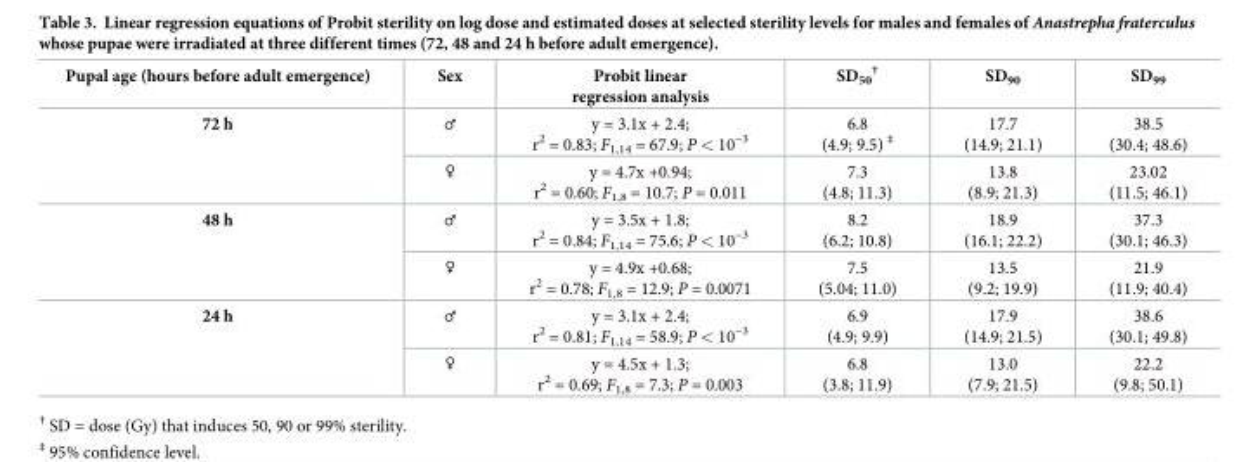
<table><thead><tr><td>Pupal age (hours before adult emergence)</td><td>Sex</td><td>Probit linear regression analysis</td><td>SD<sub>50</sub> <sup>†</sup></td><td>SD<sub>90</sub></td><td>SD<sub>99</sub></td></tr></thead><tbody><tr><td rowspan="2">72 h</td><td>♂</td><td>y = 3.1x + 2.4; r<sup>2</sup> = 0.83; F<sub>1,14</sub> = 67.9; P &lt; 10<sup>−3</sup></td><td>6.8 (4.9; 9.5) <sup>‡</sup></td><td>17.7 (14.9; 21.1)</td><td>38.5 (30.4; 48.6)</td></tr><tr><td>♀</td><td>y = 4.7x +0.94; r<sup>2</sup> = 0.60; F<sub>1,8</sub> = 10.7; P = 0.011</td><td>7.3 (4.8; 11.3)</td><td>13.8 (8.9; 21.3)</td><td>23.02 (11.5; 46.1)</td></tr><tr><td rowspan="2">48 h</td><td>♂</td><td>y = 3.5x + 1.8; r<sup>2</sup> = 0.84; F<sub>1,14</sub> = 75.6; P &lt; 10<sup>−3</sup></td><td>8.2 (6.2; 10.8)</td><td>18.9 (16.1; 22.2)</td><td>37.3 (30.1; 46.3)</td></tr><tr><td>♀</td><td>y = 4.9x +0.68; r<sup>2</sup> = 0.78; F<sub>1,8</sub> = 12.9; P = 0.0071</td><td>7.5 (5.04; 11.0)</td><td>13.5 (9.2; 19.9)</td><td>21.9 (11.9; 40.4)</td></tr><tr><td rowspan="2">24 h</td><td>♂</td><td>y = 3.1x + 2.4; r<sup>2</sup> = 0.81; F<sub>1,14</sub> = 58.9; P &lt; 10<sup>−3</sup></td><td>6.9 (4.9; 9.9)</td><td>17.9 (14.9; 21.5)</td><td>38.6 (30.1; 49.8)</td></tr><tr><td>♀</td><td>y = 4.5x + 1.3; r<sup>2</sup> = 0.69; F<sub>1,8</sub> = 7.3; P = 0.003</td><td>6.8 (3.8; 11.9)</td><td>13.0 (7.9; 21.5)</td><td>22.2 (9.8; 50.1)</td></tr></tbody></table>